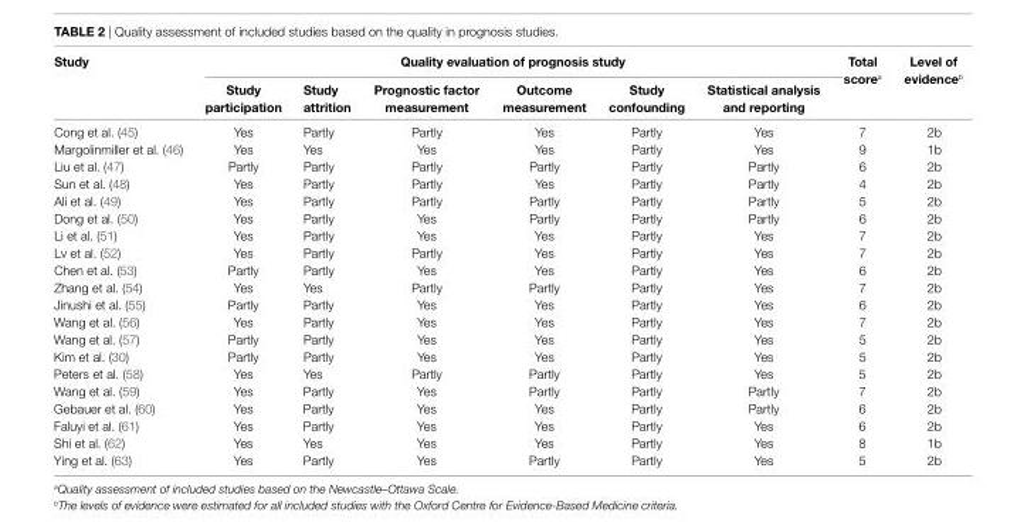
<table><thead><tr><td rowspan="2">Study</td><td colspan="6">Quality evaluation of prognosis study</td><td rowspan="2">total score<sup>a</sup></td><td rowspan="2">Level of evidence<sup>b</sup></td></tr><tr><td>Study participation</td><td>Study attrition</td><td>Prognostic factor measurement</td><td>Outcome measurement</td><td>Study confounding</td><td>Statistical analysis and reporting</td></tr></thead><tbody><tr><td>Cong et al. (45)</td><td>Yes</td><td>Partly</td><td>Partly</td><td>Yes</td><td>Partly</td><td>Yes</td><td>7</td><td>2b</td></tr><tr><td>Margolinmiller et al. (46)</td><td>Yes</td><td>Yes</td><td>Yes</td><td>Yes</td><td>Partly</td><td>Yes</td><td>9</td><td>1b</td></tr><tr><td>Liu et al. (47)</td><td>Partly</td><td>Partly</td><td>Partly</td><td>Partly</td><td>Partly</td><td>Partly</td><td>6</td><td>2b</td></tr><tr><td>Sun et al. (48)</td><td>Yes</td><td>Partly</td><td>Partly</td><td>Yes</td><td>Partly</td><td>Partly</td><td>4</td><td>2b</td></tr><tr><td>Ali et al. (49)</td><td>Yes</td><td>Partly</td><td>Partly</td><td>Partly</td><td>Partly</td><td>Partly</td><td>5</td><td>2b</td></tr><tr><td>Dong et al. (50)</td><td>Yes</td><td>Partly</td><td>Yes</td><td>Partly</td><td>Partly</td><td>Partly</td><td>6</td><td>2b</td></tr><tr><td>Li et al. (51)</td><td>Yes</td><td>Partly</td><td>Yes</td><td>Yes</td><td>Partly</td><td>Yes</td><td>7</td><td>2b</td></tr><tr><td>Lv et al. (52)</td><td>Yes</td><td>Partly</td><td>Partly</td><td>Yes</td><td>Partly</td><td>Yes</td><td>7</td><td>2b</td></tr><tr><td>Chen et al. (53)</td><td>Partly</td><td>Partly</td><td>Yes</td><td>Yes</td><td>Partly</td><td>Yes</td><td>6</td><td>2b</td></tr><tr><td>Zhang et al. (54)</td><td>Yes</td><td>Yes</td><td>Partly</td><td>Partly</td><td>Partly</td><td>Yes</td><td>7</td><td>2b</td></tr><tr><td>Jinushi et al. (55)</td><td>Partly</td><td>Partly</td><td>Yes</td><td>Yes</td><td>Partly</td><td>Yes</td><td>6</td><td>2b</td></tr><tr><td>Wang et al. (56)</td><td>Yes</td><td>Partly</td><td>Yes</td><td>Yes</td><td>Partly</td><td>Yes</td><td>7</td><td>2b</td></tr><tr><td>Wang et al. (57)</td><td>Partly</td><td>Partly</td><td>Yes</td><td>Yes</td><td>Partly</td><td>Yes</td><td>5</td><td>2b</td></tr><tr><td>Kim et al. (30)</td><td>Partly</td><td>Partly</td><td>Yes</td><td>Yes</td><td>Partly</td><td>Yes</td><td>5</td><td>2b</td></tr><tr><td>Peters et al. (58)</td><td>Yes</td><td>Yes</td><td>Partly</td><td>Partly</td><td>Partly</td><td>Yes</td><td>5</td><td>2b</td></tr><tr><td>Wang et al. (59)</td><td>Yes</td><td>Partly</td><td>Yes</td><td>Partly</td><td>Partly</td><td>Partly</td><td>7</td><td>2b</td></tr><tr><td>Gebauer et al. (60)</td><td>Yes</td><td>Partly</td><td>Yes</td><td>Yes</td><td>Partly</td><td>Partly</td><td>6</td><td>2b</td></tr><tr><td>Faluyi et al. (61)</td><td>Yes</td><td>Partly</td><td>Yes</td><td>Yes</td><td>Partly</td><td>Yes</td><td>6</td><td>2b</td></tr><tr><td>Shi et al. (62)</td><td>Yes</td><td>Yes</td><td>Yes</td><td>Yes</td><td>Partly</td><td>Yes</td><td>8</td><td>1b</td></tr><tr><td>Ying et al. (63)</td><td>Yes</td><td>Partly</td><td>Yes</td><td>Partly</td><td>Partly</td><td>Yes</td><td>5</td><td>2b</td></tr></tbody></table>